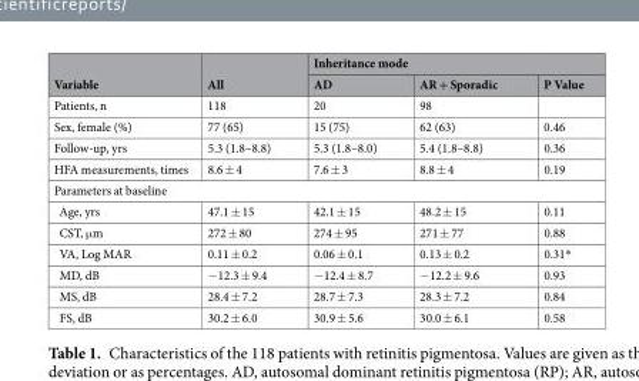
<table><thead><tr><td rowspan="2">Variable</td><td rowspan="2">All</td><td colspan="3">Inheritance mode</td></tr><tr><td>AD</td><td>AR + Sporadic</td><td>P Value</td></tr></thead><tbody><tr><td>Patients, n</td><td>118</td><td>20</td><td>98</td><td></td></tr><tr><td>Sex, female (%)</td><td>77 (65)</td><td>15 (75)</td><td>62 (63)</td><td>0.46</td></tr><tr><td>Follow-up, yrs</td><td>5.3 (1.8–8.8)</td><td>5.3 (1.8–8.0)</td><td>5.4 (1.8–8.8)</td><td>0.36</td></tr><tr><td>HFA measurements, times</td><td>8.6 ± 4</td><td>7.6 ± 3</td><td>8.8 ± 4</td><td>0.19</td></tr><tr><td colspan="5">Parameters at baseline</td></tr><tr><td>Age, yrs</td><td>47.1 ± 15</td><td>42.1 ± 15</td><td>48.2 ± 15</td><td>0.11</td></tr><tr><td>CST, μm</td><td>272 ± 80</td><td>274 ± 95</td><td>271 ± 77</td><td>0.88</td></tr><tr><td>VA, Log MAR</td><td>0.11 ± 0.2</td><td>0.06 ± 0.1</td><td>0.13 ± 0.2</td><td>0.31*</td></tr><tr><td>MD, dB</td><td>−12.3 ± 9.4</td><td>−12.4 ± 8.7</td><td>−12.2 ± 9.6</td><td>0.93</td></tr><tr><td>MS, dB</td><td>28.4 ± 7.2</td><td>28.7 ± 7.3</td><td>28.3 ± 7.2</td><td>0.84</td></tr><tr><td>FS, dB</td><td>30.2 ± 6.0</td><td>30.9 ± 5.6</td><td>30.0 ± 6.1</td><td>0.58</td></tr></tbody></table>